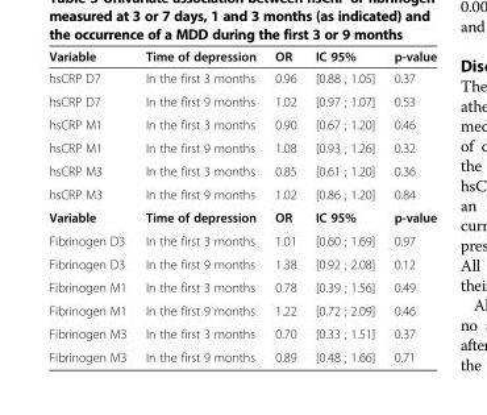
<table><thead><tr><td>Variable</td><td>Time of depression</td><td>OR</td><td>IC 95%</td><td>p-value</td></tr></thead><tbody><tr><td>hsCRP D7</td><td>In the first 3 months</td><td>0.96</td><td>[0.88 ; 1.05]</td><td>0.37</td></tr><tr><td>hsCRP D7</td><td>In the first 9 months</td><td>1.02</td><td>[0.97 ; 1.07]</td><td>0.53</td></tr><tr><td>hsCRP M1</td><td>In the first 3 months</td><td>0.90</td><td>[0.67 ; 1.20]</td><td>0.46</td></tr><tr><td>hsCRP M1</td><td>In the first 9 months</td><td>1.08</td><td>[0.93 ; 1.26]</td><td>0.32</td></tr><tr><td>hsCRP M3</td><td>In the first 3 months</td><td>0.85</td><td>[0.61 ; 1.20]</td><td>0.36</td></tr><tr><td>hsCRP M3</td><td>In the first 9 months</td><td>1.02</td><td>[0.86 ; 1.20]</td><td>0.84</td></tr><tr><td>Variable</td><td>Time of depression</td><td>OR</td><td>IC 95%</td><td>p-value</td></tr><tr><td>Fibrinogen D3</td><td>In the first 3 months</td><td>1.01</td><td>[0.60 ; 1.69]</td><td>0.97</td></tr><tr><td>Fibrinogen D3</td><td>In the first 9 months</td><td>1.38</td><td>[0.92 ; 2.08]</td><td>0.12</td></tr><tr><td>Fibrinogen M1</td><td>In the first 3 months</td><td>0.78</td><td>[0.39 ; 1.56]</td><td>0.49</td></tr><tr><td>Fibrinogen M1</td><td>In the first 9 months</td><td>1.22</td><td>[0.72 ; 2.09]</td><td>0.46</td></tr><tr><td>Fibrinogen M3</td><td>In the first 3 months</td><td>0.70</td><td>[0.33 ; 1.51]</td><td>0.37</td></tr><tr><td>Fibrinogen M3</td><td>In the first 9 months</td><td>0.89</td><td>[0.48 ; 1.66]</td><td>0.71</td></tr></tbody></table>